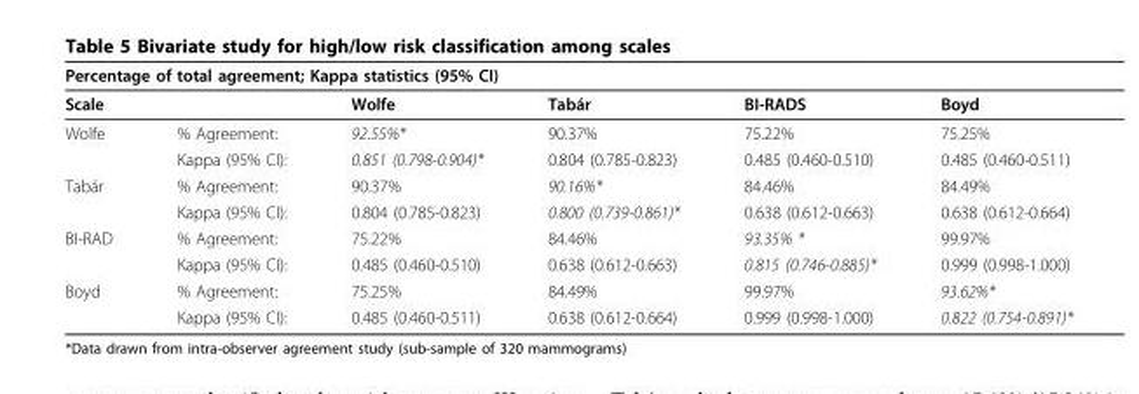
<table><thead><tr><td colspan="6">Percentage of total agreement; Kappa statistics (95% CI)</td></tr><tr><td>Scale</td><td></td><td>Wolfe</td><td>Tabár</td><td>BI-RADS</td><td>Boyd</td></tr></thead><tbody><tr><td rowspan="2">Wolfe</td><td>% Agreement:</td><td>92.55%*</td><td>90.37%</td><td>75.22%</td><td>75.25%</td></tr><tr><td>Kappa (95% CI):</td><td>0.851 (0.798-0.904)*</td><td>0.804 (0.785-0.823)</td><td>0.485 (0.460-0.510)</td><td>0.485 (0.460-0.511)</td></tr><tr><td rowspan="2">Tabár</td><td>% Agreement:</td><td>90.37%</td><td>90.16%*</td><td>84.46%</td><td>84.49%</td></tr><tr><td>Kappa (95% CI):</td><td>0.804 (0.785-0.823)</td><td>0.800 (0.739-0.861)*</td><td>0.638 (0.612-0.663)</td><td>0.638 (0.612-0.664)</td></tr><tr><td rowspan="2">BI-RAD</td><td>% Agreement:</td><td>75.22%</td><td>84.46%</td><td>93.35% *</td><td>99.97%</td></tr><tr><td>Kappa (95% CI):</td><td>0.485 (0.460-0.510)</td><td>0.638 (0.612-0.663)</td><td>0.815 (0.746-0.885)*</td><td>0.999 (0.998-1.000)</td></tr><tr><td rowspan="2">Boyd</td><td>% Agreement:</td><td>75.25%</td><td>84.49%</td><td>99.97%</td><td>93.62%*</td></tr><tr><td>Kappa (95% CI):</td><td>0.485 (0.460-0.511)</td><td>0.638 (0.612-0.664)</td><td>0.999 (0.998-1.000)</td><td>0.822 (0.754-0.891)*</td></tr></tbody></table>